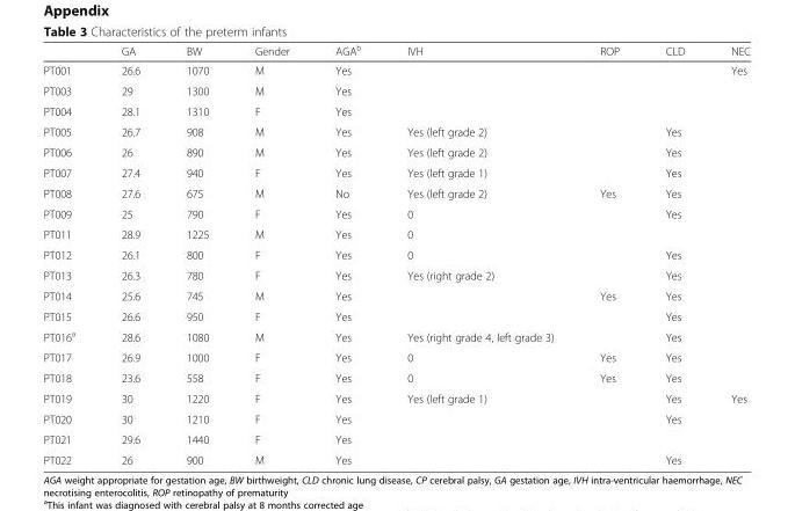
<table><thead><tr><td></td><td>GA</td><td>BW</td><td>Gender</td><td>AGA<sup>b</sup></td><td>IVH</td><td>ROP</td><td>CLD</td><td>NEC</td></tr></thead><tbody><tr><td>PT001</td><td>26.6</td><td>1070</td><td>M</td><td>Yes</td><td></td><td></td><td></td><td>Yes</td></tr><tr><td>PT003</td><td>29</td><td>1300</td><td>M</td><td>Yes</td><td></td><td></td><td></td><td></td></tr><tr><td>PT004</td><td>28.1</td><td>1310</td><td>F</td><td>Yes</td><td></td><td></td><td></td><td></td></tr><tr><td>PT005</td><td>26.7</td><td>908</td><td>M</td><td>Yes</td><td>Yes (left grade 2)</td><td></td><td>Yes</td><td></td></tr><tr><td>PT006</td><td>26</td><td>890</td><td>M</td><td>Yes</td><td>Yes (left grade 2)</td><td></td><td>Yes</td><td></td></tr><tr><td>PT007</td><td>27.4</td><td>940</td><td>F</td><td>Yes</td><td>Yes (left grade 1)</td><td></td><td>Yes</td><td></td></tr><tr><td>PT008</td><td>27.6</td><td>675</td><td>M</td><td>No</td><td>Yes (left grade 2)</td><td>Yes</td><td>Yes</td><td></td></tr><tr><td>PT009</td><td>25</td><td>790</td><td>F</td><td>Yes</td><td>0</td><td></td><td>Yes</td><td></td></tr><tr><td>PT011</td><td>28.9</td><td>1225</td><td>M</td><td>Yes</td><td>0</td><td></td><td></td><td></td></tr><tr><td>PT012</td><td>26.1</td><td>800</td><td>F</td><td>Yes</td><td>0</td><td></td><td>Yes</td><td></td></tr><tr><td>PT013</td><td>26.3</td><td>780</td><td>F</td><td>Yes</td><td>Yes (right grade 2)</td><td></td><td>Yes</td><td></td></tr><tr><td>PT014</td><td>25.6</td><td>745</td><td>M</td><td>Yes</td><td></td><td>Yes</td><td>Yes</td><td></td></tr><tr><td>PT015</td><td>26.6</td><td>950</td><td>F</td><td>Yes</td><td></td><td></td><td>Yes</td><td></td></tr><tr><td>PT016<sup>a</sup></td><td>28.6</td><td>1080</td><td>M</td><td>Yes</td><td>Yes (right grade 4, left grade 3)</td><td></td><td>Yes</td><td></td></tr><tr><td>PT017</td><td>26.9</td><td>1000</td><td>F</td><td>Yes</td><td>0</td><td>Yes</td><td>Yes</td><td></td></tr><tr><td>PT018</td><td>23.6</td><td>558</td><td>F</td><td>Yes</td><td>0</td><td>Yes</td><td>Yes</td><td></td></tr><tr><td>PT019</td><td>30</td><td>1220</td><td>F</td><td>Yes</td><td>Yes (left grade 1)</td><td></td><td>Yes</td><td>Yes</td></tr><tr><td>PT020</td><td>30</td><td>1210</td><td>F</td><td>Yes</td><td></td><td></td><td>Yes</td><td></td></tr><tr><td>PT021</td><td>29.6</td><td>1440</td><td>F</td><td>Yes</td><td></td><td></td><td></td><td></td></tr><tr><td>PT022</td><td>26</td><td>900</td><td>M</td><td>Yes</td><td></td><td></td><td>Yes</td><td></td></tr></tbody></table>